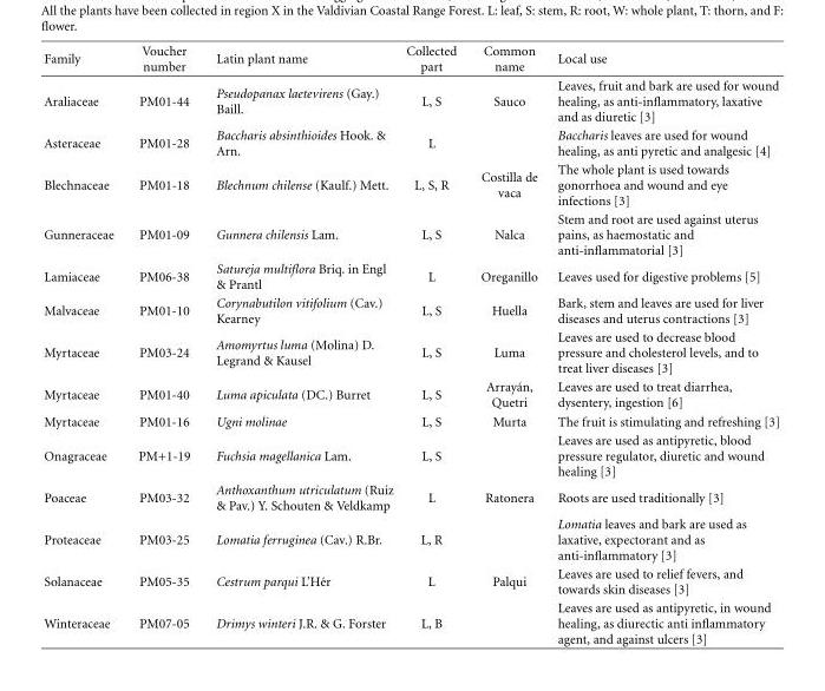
<table><thead><tr><td>Family</td><td>Voucher number</td><td>Latin plant name</td><td>Collected part</td><td>Common name</td><td>Local use</td></tr></thead><tbody><tr><td>Araliaceae</td><td>PM01-44</td><td>Pseudopanax laetevirens (Gay.) Baill.</td><td>L, S</td><td>Sauco</td><td>Leaves, fruit and bark are used for wound healing, as anti-inflammatory, laxative and as diuretic [3]</td></tr><tr><td>Asteraceae</td><td>PM01-28</td><td>Baccharis absinthioides Hook. &amp; Arn.</td><td>L</td><td></td><td>Baccharis leaves are used for wound healing, as anti pyretic and analgesic [4]</td></tr><tr><td>Blechnaceae</td><td>PM01-18</td><td>Blechnum chilense (Kaulf.) Mett.</td><td>L, S, R</td><td>Costilla de vaca</td><td>The whole plant is used towards gonorrhoea and wound and eye infections [3]</td></tr><tr><td>Gunneraceae</td><td>PM01-09</td><td>Gunnera chilensis Lam.</td><td>L, S</td><td>Nalca</td><td>Stem and root are used against uterus pains, as haemostatic and anti-inflammatorial [3]</td></tr><tr><td>Lamiaceae</td><td>PM06-38</td><td>Satureja multiflora Briq. in Engl &amp; Prantl</td><td>L</td><td>Oreganillo</td><td>Leaves used for digestive problems [5]</td></tr><tr><td>Malvaceae</td><td>PM01-10</td><td>Corynabutilon vitifolium (Cav.) Kearney</td><td>L, S</td><td>Huella</td><td>Bark, stem and leaves are used for liver diseases and uterus contractions [3]</td></tr><tr><td>Myrtaceae</td><td>PM03-24</td><td>Amomyrtus luma (Molina) D. Legrand &amp; Kausel</td><td>L, S</td><td>Luma</td><td>Leaves are used to decrease blood pressure and cholesterol levels, and to treat liver diseases [3]</td></tr><tr><td>Myrtaceae</td><td>PM01-40</td><td>Luma apiculata (DC.) Burret</td><td>L, S</td><td>Array´an, Quetri</td><td>Leaves are used to treat diarrhea, dysentery, ingestion [6]</td></tr><tr><td>Myrtaceae</td><td>PM01-16</td><td>Ugni molinae</td><td>L, S</td><td>Murta</td><td>The fruit is stimulating and refreshing [3]</td></tr><tr><td>Onagraceae</td><td>PM+1-19</td><td>Fuchsia magellanica Lam.</td><td>L, S</td><td></td><td>Leaves are used as antipyretic, blood pressure regulator, diuretic and wound healing [3]</td></tr><tr><td>Poaceae</td><td>PM03-32</td><td>Anthoxanthum utriculatum (Ruiz &amp; Pav.) Y. Schouten &amp; Veldkamp</td><td>L</td><td>Ratonera</td><td>Roots are used traditionally [3]</td></tr><tr><td>Proteaceae</td><td>PM03-25</td><td>Lomatia ferruginea (Cav.) R.Br.</td><td>L, R</td><td></td><td>Lomatia leaves and bark are used as laxative, expectorant and as anti-inflammatory [3]</td></tr><tr><td>Solanaceae</td><td>PM05-35</td><td>Cestrum parqui L’H´er</td><td>L</td><td>Palqui</td><td>Leaves are used to relief fevers, and towards skin diseases [3]</td></tr><tr><td>Winteraceae</td><td>PM07-05</td><td>Drimys winteri J.R. &amp; G. Forster</td><td>L, B</td><td></td><td>Leaves are used as antipyretic, in wound healing, as diurectic anti inflammatory agent, and against ulcers [3]</td></tr></tbody></table>